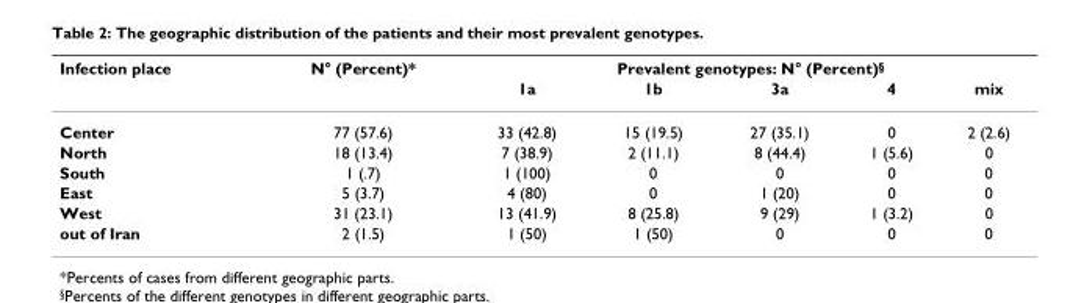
<table><thead><tr><td rowspan="2">Infection place</td><td rowspan="2">N° (Percent)*</td><td colspan="5">Prevalent genotypes: N° (Percent)<sup>§</sup></td></tr><tr><td>1a</td><td>1b</td><td>3a</td><td>4</td><td>mix</td></tr></thead><tbody><tr><td>Center</td><td>77 (57.6)</td><td>33 (42.8)</td><td>15 (19.5)</td><td>27 (35.1)</td><td>0</td><td>2 (2.6)</td></tr><tr><td>North</td><td>18 (13.4)</td><td>7 (38.9)</td><td>2 (11.1)</td><td>8 (44.4)</td><td>1 (5.6)</td><td>0</td></tr><tr><td>South</td><td>1 (.7)</td><td>1 (100)</td><td>0</td><td>0</td><td>0</td><td>0</td></tr><tr><td>East</td><td>5 (3.7)</td><td>4 (80)</td><td>0</td><td>1 (20)</td><td>0</td><td>0</td></tr><tr><td>West</td><td>31 (23.1)</td><td>13 (41.9)</td><td>8 (25.8)</td><td>9 (29)</td><td>1 (3.2)</td><td>0</td></tr><tr><td>out of Iran</td><td>2 (1.5)</td><td>1 (50)</td><td>1 (50)</td><td>0</td><td>0</td><td>0</td></tr></tbody></table>